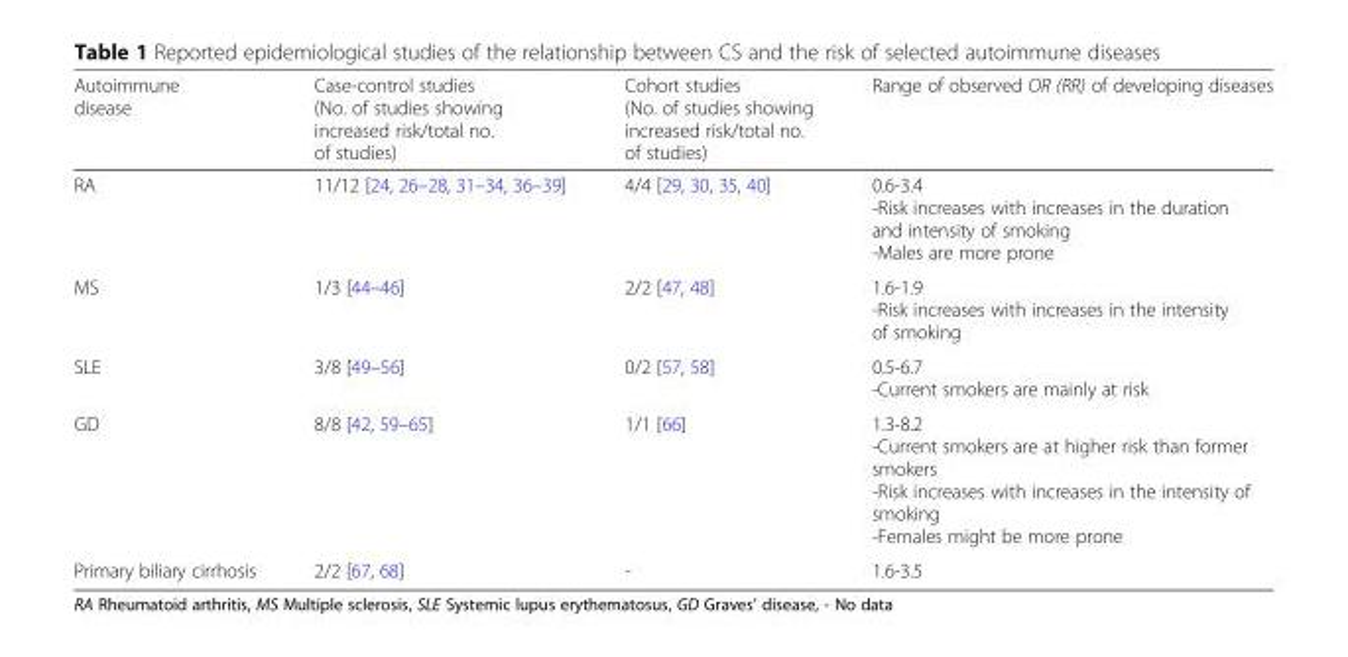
<table><thead><tr><td>Autoimmune disease</td><td>Case-control studies (No. of studies showing increased risk/total no. of studies)</td><td>Cohort studies (No. of studies showing increased risk/total no. of studies)</td><td>Range of observed OR (RR) of developing diseases</td></tr></thead><tbody><tr><td>RA</td><td>11/12 [24, 26–28, 31–34, 36–39]</td><td>4/4 [29, 30, 35, 40]</td><td>0.6-3.4 -Risk increases with increases in the duration and intensity of smoking -Males are more prone</td></tr><tr><td>MS</td><td>1/3 [44–46]</td><td>2/2 [47, 48]</td><td>1.6-1.9 -Risk increases with increases in the intensity of smoking</td></tr><tr><td>SLE</td><td>3/8 [49–56]</td><td>0/2 [57, 58]</td><td>0.5-6.7 -Current smokers are mainly at risk</td></tr><tr><td>GD</td><td>8/8 [42, 59–65]</td><td>1/1 [66]</td><td>1.3-8.2 -Current smokers are at higher risk than former smokers -Risk increases with increases in the intensity of smoking -Females might be more prone</td></tr><tr><td>Primary biliary cirrhosis</td><td>2/2 [67, 68]</td><td>-</td><td>1.6-3.5</td></tr></tbody></table>